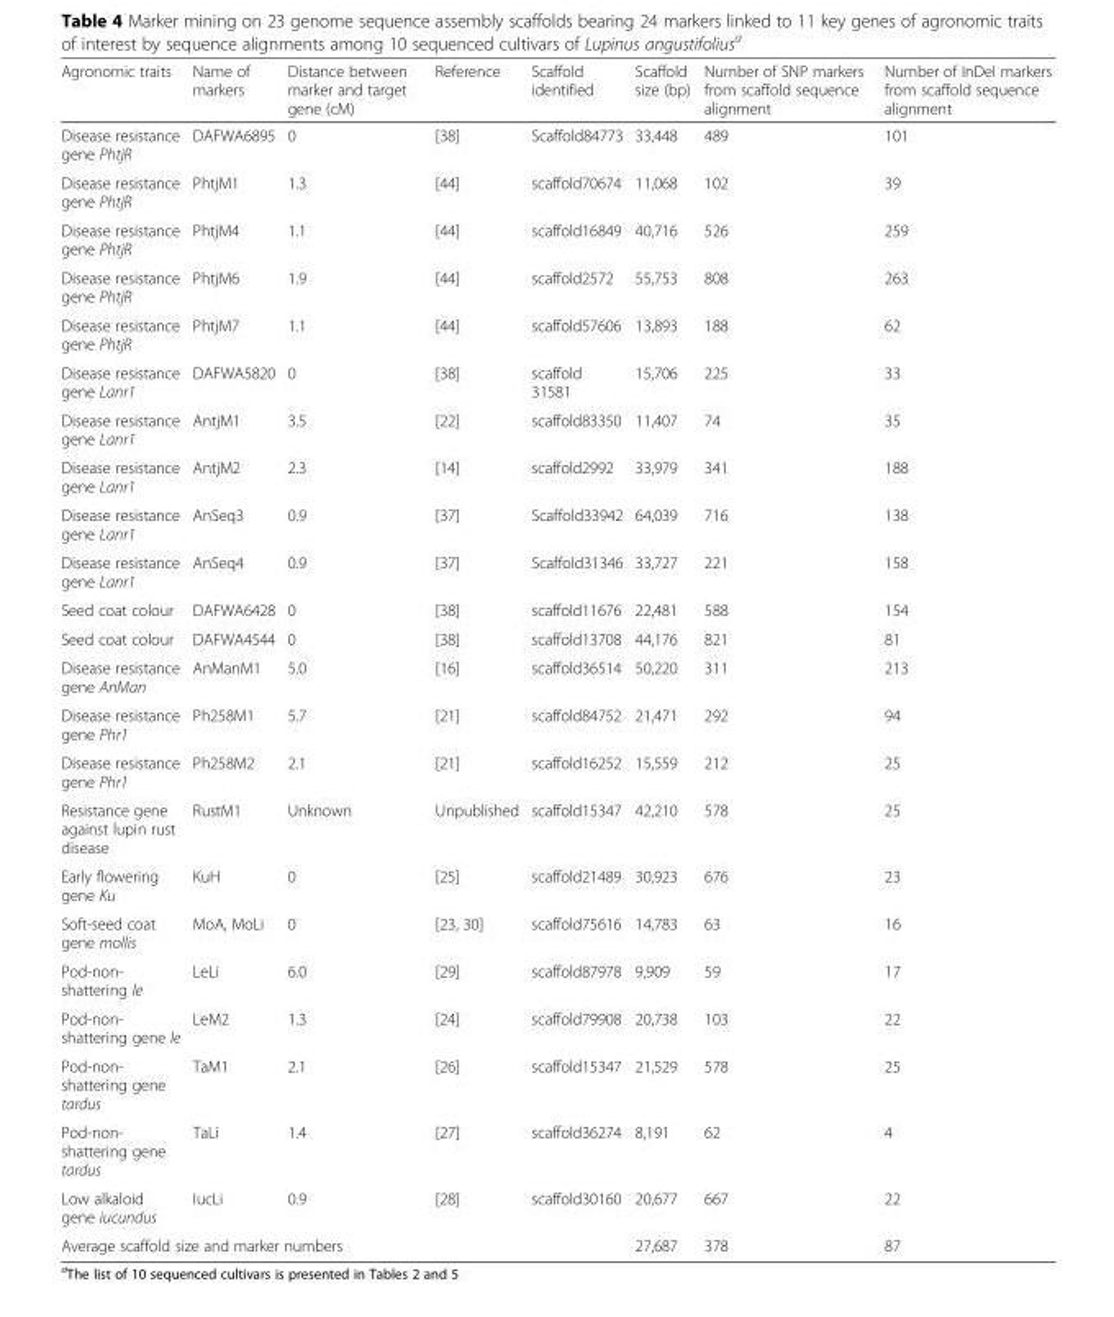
<table><thead><tr><td>Agronomic traits</td><td>Name of markers</td><td>Distance between marker and target gene (cM)</td><td>Reference</td><td>Scaffold identified</td><td>Scaffold size (bp)</td><td>Number of SNP markers from scaffold sequence alignment</td><td>Number of InDel markers from scaffold sequence alignment</td></tr></thead><tbody><tr><td>Disease resistance gene PhtjR</td><td>DAFWA6895</td><td>0</td><td>[38]</td><td>Scaffold84773</td><td>33,448</td><td>489</td><td>101</td></tr><tr><td>Disease resistance gene PhtjR</td><td>PhtjM1</td><td>1.3</td><td>[44]</td><td>scaffold70674</td><td>11,068</td><td>102</td><td>39</td></tr><tr><td>Disease resistance gene PhtjR</td><td>PhtjM4</td><td>1.1</td><td>[44]</td><td>scaffold16849</td><td>40,716</td><td>526</td><td>259</td></tr><tr><td>Disease resistance gene PhtjR</td><td>PhtjM6</td><td>1.9</td><td>[44]</td><td>scaffold2572</td><td>55,753</td><td>808</td><td>263</td></tr><tr><td>Disease resistance gene PhtjR</td><td>PhtjM7</td><td>1.1</td><td>[44]</td><td>scaffold57606</td><td>13,893</td><td>188</td><td>62</td></tr><tr><td>Disease resistance gene Lanr1</td><td>DAFWA5820</td><td>0</td><td>[38]</td><td>scaffold 31581</td><td>15,706</td><td>225</td><td>33</td></tr><tr><td>Disease resistance gene Lanr1</td><td>AntjM1</td><td>3.5</td><td>[22]</td><td>scaffold83350</td><td>11,407</td><td>74</td><td>35</td></tr><tr><td>Disease resistance gene Lanr1</td><td>AntjM2</td><td>2.3</td><td>[14]</td><td>scaffold2992</td><td>33,979</td><td>341</td><td>188</td></tr><tr><td>Disease resistance gene Lanr1</td><td>AnSeq3</td><td>0.9</td><td>[37]</td><td>Scaffold33942</td><td>64,039</td><td>716</td><td>138</td></tr><tr><td>Disease resistance gene Lanr1</td><td>AnSeq4</td><td>0.9</td><td>[37]</td><td>Scaffold31346</td><td>33,727</td><td>221</td><td>158</td></tr><tr><td>Seed coat colour</td><td>DAFWA6428</td><td>0</td><td>[38]</td><td>scaffold11676</td><td>22,481</td><td>588</td><td>154</td></tr><tr><td>Seed coat colour</td><td>DAFWA4544</td><td>0</td><td>[38]</td><td>scaffold13708</td><td>44,176</td><td>821</td><td>81</td></tr><tr><td>Disease resistance gene AnMan</td><td>AnManM1</td><td>5.0</td><td>[16]</td><td>scaffold36514</td><td>50,220</td><td>311</td><td>213</td></tr><tr><td>Disease resistance gene Phr1</td><td>Ph258M1</td><td>5.7</td><td>[21]</td><td>scaffold84752</td><td>21,471</td><td>292</td><td>94</td></tr><tr><td>Disease resistance gene Phr1</td><td>Ph258M2</td><td>2.1</td><td>[21]</td><td>scaffold16252</td><td>15,559</td><td>212</td><td>25</td></tr><tr><td>Resistance gene against lupin rust disease</td><td>RustM1</td><td>Unknown</td><td>Unpublished</td><td>scaffold15347</td><td>42,210</td><td>578</td><td>25</td></tr><tr><td>Early flowering gene Ku</td><td>KuH</td><td>0</td><td>[25]</td><td>scaffold21489</td><td>30,923</td><td>676</td><td>23</td></tr><tr><td>Soft-seed coat gene mollis</td><td>MoA, MoLi</td><td>0</td><td>[23, 30]</td><td>scaffold75616</td><td>14,783</td><td>63</td><td>16</td></tr><tr><td>Pod-non- shattering le</td><td>LeLi</td><td>6.0</td><td>[29]</td><td>scaffold87978</td><td>9,909</td><td>59</td><td>17</td></tr><tr><td>Pod-non- shattering gene le</td><td>LeM2</td><td>1.3</td><td>[24]</td><td>scaffold79908</td><td>20,738</td><td>103</td><td>22</td></tr><tr><td>Pod-non- shattering gene tardus</td><td>TaM1</td><td>2.1</td><td>[26]</td><td>scaffold15347</td><td>21,529</td><td>578</td><td>25</td></tr><tr><td>Pod-non- shattering gene tardus</td><td>TaLi</td><td>1.4</td><td>[27]</td><td>scaffold36274</td><td>8,191</td><td>62</td><td>4</td></tr><tr><td>Low alkaloid gene iucundus</td><td>IucLi</td><td>0.9</td><td>[28]</td><td>scaffold30160</td><td>20,677</td><td>667</td><td>22</td></tr><tr><td colspan="5">Average scaffold size and marker numbers</td><td>27,687</td><td>378</td><td>87</td></tr></tbody></table>